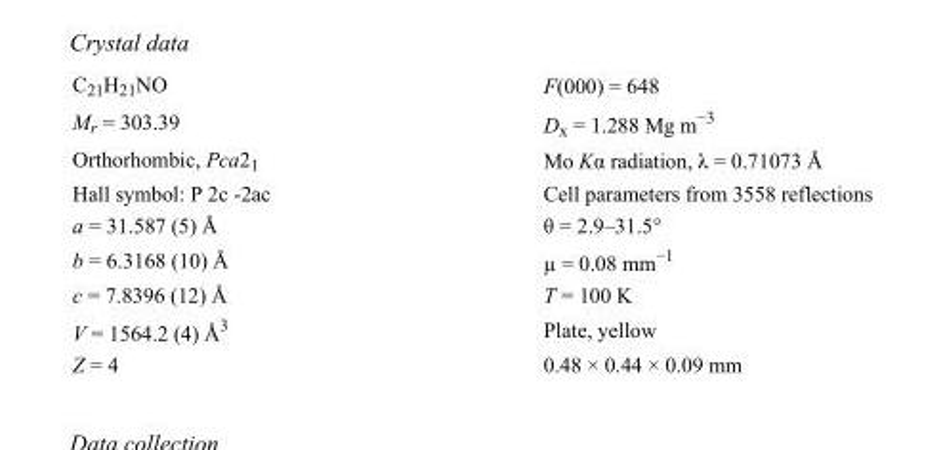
<table><tbody><tr><td>C<sub>21</sub>H<sub>21</sub>NO</td><td>F(000) = 648</td></tr><tr><td>M<sub>r</sub> = 303.39</td><td>D<sub>x</sub> = 1.288 Mg m<sup>−3</sup></td></tr><tr><td>Orthorhombic, Pca2<sub>1</sub></td><td>Mo Kα radiation, λ = 0.71073 Å</td></tr><tr><td>Hall symbol: P 2c -2ac</td><td>Cell parameters from 3558 reflections</td></tr><tr><td>a = 31.587 (5) Å</td><td>θ = 2.9–31.5°</td></tr><tr><td>b = 6.3168 (10) Å</td><td>µ = 0.08 mm<sup>−1</sup></td></tr><tr><td>c = 7.8396 (12) Å</td><td>T = 100 K</td></tr><tr><td>V = 1564.2 (4) Å<sup>3</sup></td><td>Plate, yellow</td></tr><tr><td>Z = 4</td><td>0.48 × 0.44 × 0.09 mm</td></tr></tbody></table>